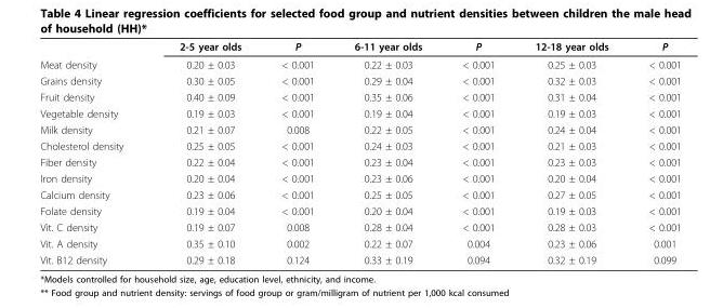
<table><thead><tr><td></td><td>2-5 year olds</td><td>P</td><td>6-11 year olds</td><td>P</td><td>12-18 year olds</td><td>P</td></tr></thead><tbody><tr><td>Meat density</td><td>0.20 ± 0.03</td><td>&lt; 0.001</td><td>0.22 ± 0.03</td><td>&lt; 0.001</td><td>0.25 ± 0.03</td><td>&lt; 0.001</td></tr><tr><td>Grains density</td><td>0.30 ± 0.05</td><td>&lt; 0.001</td><td>0.29 ± 0.04</td><td>&lt; 0.001</td><td>0.32 ± 0.03</td><td>&lt; 0.001</td></tr><tr><td>Fruit density</td><td>0.40 ± 0.09</td><td>&lt; 0.001</td><td>0.35 ± 0.06</td><td>&lt; 0.001</td><td>0.31 ± 0.04</td><td>&lt; 0.001</td></tr><tr><td>Vegetable density</td><td>0.19 ± 0.03</td><td>&lt; 0.001</td><td>0.19 ± 0.04</td><td>&lt; 0.001</td><td>0.19 ± 0.03</td><td>&lt; 0.001</td></tr><tr><td>Milk density</td><td>0.21 ± 0.07</td><td>0.008</td><td>0.22 ± 0.05</td><td>&lt; 0.001</td><td>0.24 ± 0.04</td><td>&lt; 0.001</td></tr><tr><td>Cholesterol density</td><td>0.25 ± 0.05</td><td>&lt; 0.001</td><td>0.24 ± 0.03</td><td>&lt; 0.001</td><td>0.21 ± 0.03</td><td>&lt; 0.001</td></tr><tr><td>Fiber density</td><td>0.22 ± 0.04</td><td>&lt; 0.001</td><td>0.23 ± 0.04</td><td>&lt; 0.001</td><td>0.23 ± 0.03</td><td>&lt; 0.001</td></tr><tr><td>Iron density</td><td>0.20 ± 0.04</td><td>&lt; 0.001</td><td>0.23 ± 0.06</td><td>&lt; 0.001</td><td>0.20 ± 0.04</td><td>&lt; 0.001</td></tr><tr><td>Calcium density</td><td>0.23 ± 0.06</td><td>&lt; 0.001</td><td>0.25 ± 0.05</td><td>&lt; 0.001</td><td>0.27 ± 0.05</td><td>&lt; 0.001</td></tr><tr><td>Folate density</td><td>0.19 ± 0.04</td><td>&lt; 0.001</td><td>0.20 ± 0.04</td><td>&lt; 0.001</td><td>0.19 ± 0.03</td><td>&lt; 0.001</td></tr><tr><td>Vit. C density</td><td>0.19 ± 0.07</td><td>0.008</td><td>0.28 ± 0.04</td><td>&lt; 0.001</td><td>0.28 ± 0.03</td><td>&lt; 0.001</td></tr><tr><td>Vit. A density</td><td>0.35 ± 0.10</td><td>0.002</td><td>0.22 ± 0.07</td><td>0.004</td><td>0.23 ± 0.06</td><td>0.001</td></tr><tr><td>Vit. B12 density</td><td>0.29 ± 0.18</td><td>0.124</td><td>0.33 ± 0.19</td><td>0.094</td><td>0.32 ± 0.19</td><td>0.099</td></tr></tbody></table>